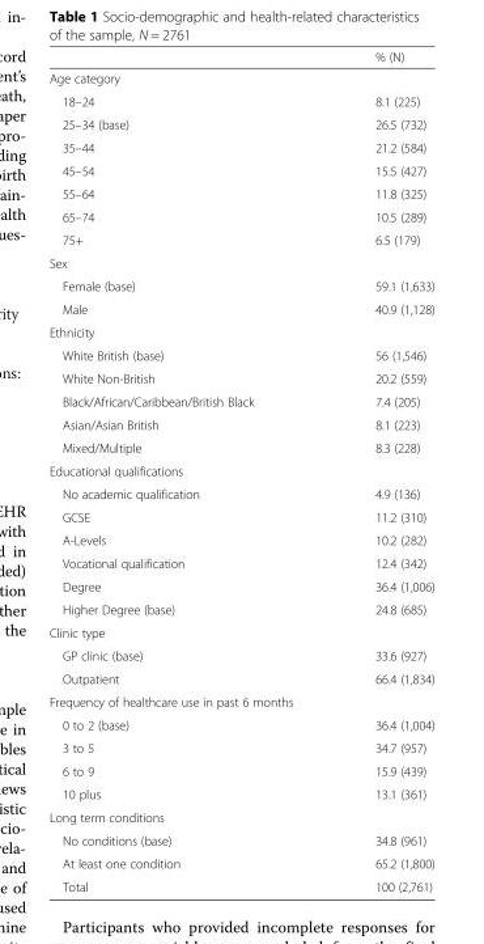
<table><thead><tr><td></td><td>% (N)</td></tr></thead><tbody><tr><td colspan="2">Age category</td></tr><tr><td>18–24</td><td>8.1 (225)</td></tr><tr><td>25–34 (base)</td><td>26.5 (732)</td></tr><tr><td>35–44</td><td>21.2 (584)</td></tr><tr><td>45–54</td><td>15.5 (427)</td></tr><tr><td>55–64</td><td>11.8 (325)</td></tr><tr><td>65–74</td><td>10.5 (289)</td></tr><tr><td>75+</td><td>6.5 (179)</td></tr><tr><td colspan="2">Sex</td></tr><tr><td>Female (base)</td><td>59.1 (1,633)</td></tr><tr><td>Male</td><td>40.9 (1,128)</td></tr><tr><td colspan="2">Ethnicity</td></tr><tr><td>White British (base)</td><td>56 (1,546)</td></tr><tr><td>White Non-British</td><td>20.2 (559)</td></tr><tr><td>Black/African/Caribbean/British Black</td><td>7.4 (205)</td></tr><tr><td>Asian/Asian British</td><td>8.1 (223)</td></tr><tr><td>Mixed/Multiple</td><td>8.3 (228)</td></tr><tr><td colspan="2">Educational qualifications</td></tr><tr><td>No academic qualification</td><td>4.9 (136)</td></tr><tr><td>GCSE</td><td>11.2 (310)</td></tr><tr><td>A-Levels</td><td>10.2 (282)</td></tr><tr><td>Vocational qualification</td><td>12.4 (342)</td></tr><tr><td>Degree</td><td>36.4 (1,006)</td></tr><tr><td>Higher Degree (base)</td><td>24.8 (685)</td></tr><tr><td colspan="2">Clinic type</td></tr><tr><td>GP clinic (base)</td><td>33.6 (927)</td></tr><tr><td>Outpatient</td><td>66.4 (1,834)</td></tr><tr><td colspan="2">Frequency of healthcare use in past 6 months</td></tr><tr><td>0 to 2 (base)</td><td>36.4 (1,004)</td></tr><tr><td>3 to 5</td><td>34.7 (957)</td></tr><tr><td>6 to 9</td><td>15.9 (439)</td></tr><tr><td>10 plus</td><td>13.1 (361)</td></tr><tr><td colspan="2">Long term conditions</td></tr><tr><td>No conditions (base)</td><td>34.8 (961)</td></tr><tr><td>At least one condition</td><td>65.2 (1,800)</td></tr><tr><td>Total</td><td>100 (2,761)</td></tr></tbody></table>